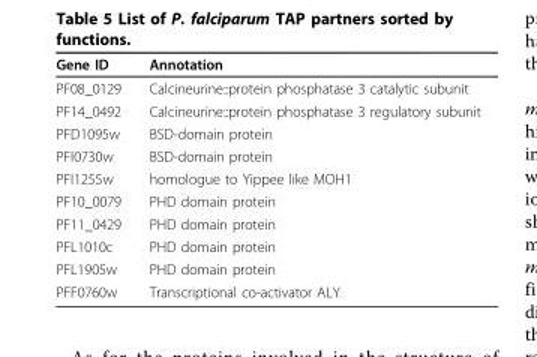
<table><thead><tr><td>Gene ID</td><td>Annotation</td></tr></thead><tbody><tr><td>PF08_0129</td><td>Calcineurine::protein phosphatase 3 catalytic subunit</td></tr><tr><td>PF14_0492</td><td>Calcineurine::protein phosphatase 3 regulatory subunit</td></tr><tr><td>PFD1095w</td><td>BSD-domain protein</td></tr><tr><td>PFI0730w</td><td>BSD-domain protein</td></tr><tr><td>PFI1255w</td><td>homologue to Yippee like MOH1</td></tr><tr><td>PF10_0079</td><td>PHD domain protein</td></tr><tr><td>PF11_0429</td><td>PHD domain protein</td></tr><tr><td>PFL1010c</td><td>PHD domain protein</td></tr><tr><td>PFL1905w</td><td>PHD domain protein</td></tr><tr><td>PFF0760w</td><td>Transcriptional co-activator ALY</td></tr></tbody></table>